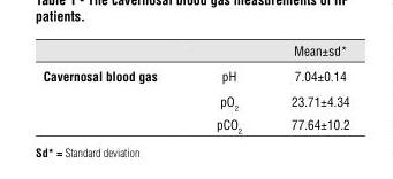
<table><thead><tr><td></td><td></td><td>Mean±sd*</td></tr></thead><tbody><tr><td rowspan="3">Cavernosal blood gas</td><td>pH</td><td>7.04±0.14</td></tr><tr><td>pO<sub>2</sub></td><td>23.71±4.34</td></tr><tr><td>pCO<sub>2</sub></td><td>77.64±10.2</td></tr></tbody></table>